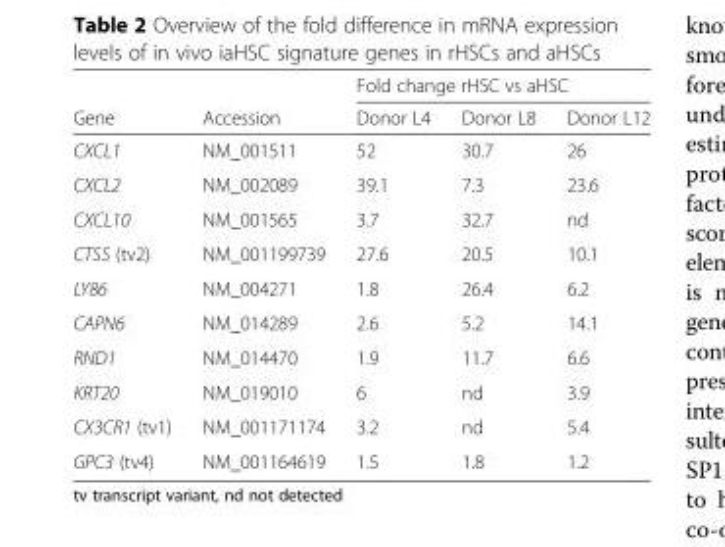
<table><thead><tr><td rowspan="2">Gene</td><td rowspan="2">Accession</td><td colspan="3">Fold change rHSC vs aHSC</td></tr><tr><td>Donor L4</td><td>Donor L8</td><td>Donor L12</td></tr></thead><tbody><tr><td>CXCL1</td><td>NM_001511</td><td>52</td><td>30.7</td><td>26</td></tr><tr><td>CXCL2</td><td>NM_002089</td><td>39.1</td><td>7.3</td><td>23.6</td></tr><tr><td>CXCL10</td><td>NM_001565</td><td>3.7</td><td>32.7</td><td>nd</td></tr><tr><td>CTSS (tv2)</td><td>NM_001199739</td><td>27.6</td><td>20.5</td><td>10.1</td></tr><tr><td>LY86</td><td>NM_004271</td><td>1.8</td><td>26.4</td><td>6.2</td></tr><tr><td>CAPN6</td><td>NM_014289</td><td>2.6</td><td>5.2</td><td>14.1</td></tr><tr><td>RND1</td><td>NM_014470</td><td>1.9</td><td>11.7</td><td>6.6</td></tr><tr><td>KRT20</td><td>NM_019010</td><td>6</td><td>nd</td><td>3.9</td></tr><tr><td>CX3CR1 (tv1)</td><td>NM_001171174</td><td>3.2</td><td>nd</td><td>5.4</td></tr><tr><td>GPC3 (tv4)</td><td>NM_001164619</td><td>1.5</td><td>1.8</td><td>1.2</td></tr></tbody></table>